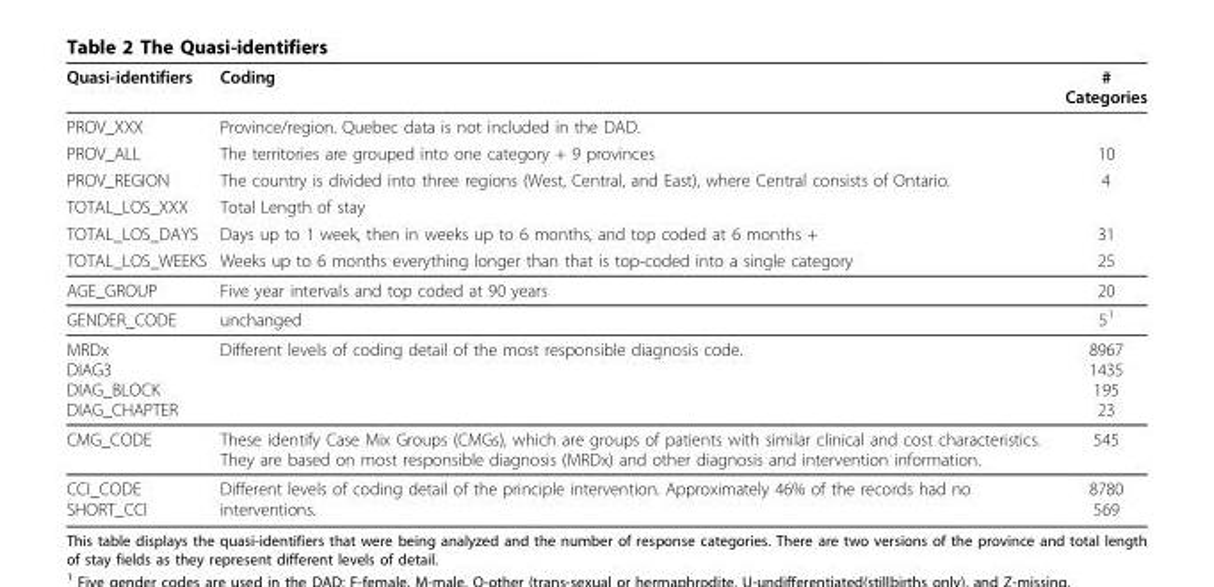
<table><thead><tr><td>Quasi-identifiers</td><td>Coding</td><td># Categories</td></tr></thead><tbody><tr><td>PROV_XXX</td><td>Province/region. Quebec data is not included in the DAD.</td><td></td></tr><tr><td>PROV_ALL</td><td>The territories are grouped into one category + 9 provinces</td><td>10</td></tr><tr><td>PROV_REGION</td><td>The country is divided into three regions (West, Central, and East), where Central consists of Ontario.</td><td>4</td></tr><tr><td>TOTAL_LOS_XXX</td><td>Total Length of stay</td><td></td></tr><tr><td>TOTAL_LOS_DAYS</td><td>Days up to 1 week, then in weeks up to 6 months, and top coded at 6 months +</td><td>31</td></tr><tr><td>TOTAL_LOS_WEEKS</td><td>Weeks up to 6 months everything longer than that is top-coded into a single category</td><td>25</td></tr><tr><td>AGE_GROUP</td><td>Five year intervals and top coded at 90 years</td><td>20</td></tr><tr><td>GENDER_CODE</td><td>unchanged</td><td>5<sup>1</sup></td></tr><tr><td>MRDx DIAG3 DIAG_BLOCK DIAG_CHAPTER</td><td>Different levels of coding detail of the most responsible diagnosis code.</td><td>8967 1435 195 23</td></tr><tr><td>CMG_CODE</td><td>These identify Case Mix Groups (CMGs), which are groups of patients with similar clinical and cost characteristics. They are based on most responsible diagnosis (MRDx) and other diagnosis and intervention information.</td><td>545</td></tr><tr><td>CCI_CODE SHORT_CCI</td><td>Different levels of coding detail of the principle intervention. Approximately 46% of the records had no interventions.</td><td>8780 569</td></tr></tbody></table>